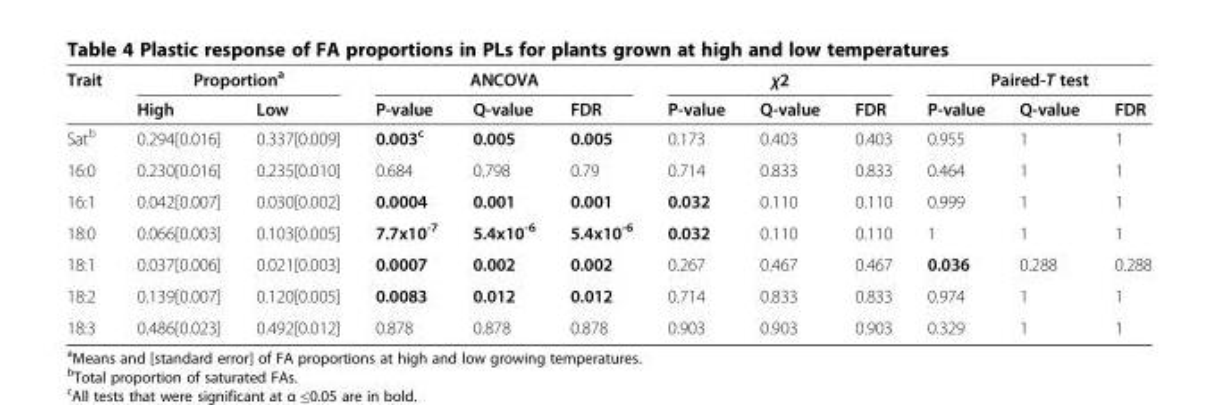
<table><thead><tr><td rowspan="2">Trait</td><td colspan="2">Proportion<sup>a</sup></td><td colspan="3">ANCOVA</td><td colspan="3">χ2</td><td colspan="3">Paired-T test</td></tr><tr><td>High</td><td>Low</td><td>P-value</td><td>Q-value</td><td>FDR</td><td>P-value</td><td>Q-value</td><td>FDR</td><td>P-value</td><td>Q-value</td><td>FDR</td></tr></thead><tbody><tr><td>Sat<sup>b</sup></td><td>0.294[0.016]</td><td>0.337[0.009]</td><td>0.003<sup>c</sup></td><td>0.005</td><td>0.005</td><td>0.173</td><td>0.403</td><td>0.403</td><td>0.955</td><td>1</td><td>1</td></tr><tr><td>16:0</td><td>0.230[0.016]</td><td>0.235[0.010]</td><td>0.684</td><td>0.798</td><td>0.79</td><td>0.714</td><td>0.833</td><td>0.833</td><td>0.464</td><td>1</td><td>1</td></tr><tr><td>16:1</td><td>0.042[0.007]</td><td>0.030[0.002]</td><td>0.0004</td><td>0.001</td><td>0.001</td><td>0.032</td><td>0.110</td><td>0.110</td><td>0.999</td><td>1</td><td>1</td></tr><tr><td>18:0</td><td>0.066[0.003]</td><td>0.103[0.005]</td><td>7.7x10<sup>-7</sup></td><td>5.4x10<sup>-6</sup></td><td>5.4x10<sup>-6</sup></td><td>0.032</td><td>0.110</td><td>0.110</td><td>1</td><td>1</td><td>1</td></tr><tr><td>18:1</td><td>0.037[0.006]</td><td>0.021[0.003]</td><td>0.0007</td><td>0.002</td><td>0.002</td><td>0.267</td><td>0.467</td><td>0.467</td><td>0.036</td><td>0.288</td><td>0.288</td></tr><tr><td>18:2</td><td>0.139[0.007]</td><td>0.120[0.005]</td><td>0.0083</td><td>0.012</td><td>0.012</td><td>0.714</td><td>0.833</td><td>0.833</td><td>0.974</td><td>1</td><td>1</td></tr><tr><td>18:3</td><td>0.486[0.023]</td><td>0.492[0.012]</td><td>0.878</td><td>0.878</td><td>0.878</td><td>0.903</td><td>0.903</td><td>0.903</td><td>0.329</td><td>1</td><td>1</td></tr></tbody></table>